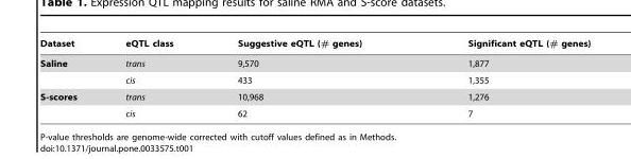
<table><thead><tr><td>Dataset</td><td>eQTL class</td><td>Suggestive eQTL (# genes)</td><td>Significant eQTL (# genes)</td></tr></thead><tbody><tr><td rowspan="2">Saline</td><td>trans</td><td>9,570</td><td>1,877</td></tr><tr><td>cis</td><td>433</td><td>1,355</td></tr><tr><td rowspan="2">S-scores</td><td>trans</td><td>10,968</td><td>1,276</td></tr><tr><td>cis</td><td>62</td><td>7</td></tr></tbody></table>